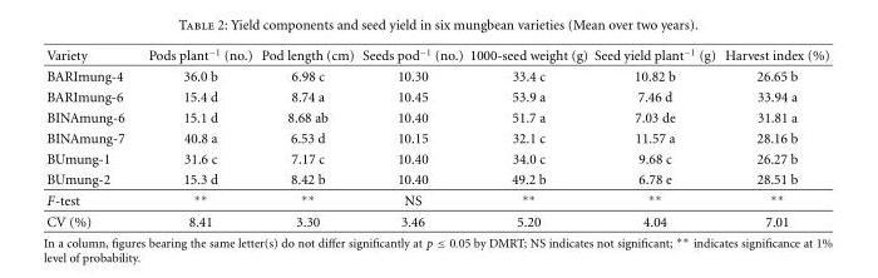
<table><thead><tr><td>Variety</td><td>Pods plant<sup>−1</sup> (no.)</td><td>Pod length (cm)</td><td>Seeds pod<sup>−1</sup> (no.)</td><td>1000-seed weight (g)</td><td>Seed yield plant<sup>−1</sup> (g)</td><td>Harvest index (%)</td></tr></thead><tbody><tr><td>BARImung-4</td><td>36.0 b</td><td>6.98 c</td><td>10.30</td><td>33.4 c</td><td>10.82 b</td><td>26.65 b</td></tr><tr><td>BARImung-6</td><td>15.4 d</td><td>8.74 a</td><td>10.45</td><td>53.9 a</td><td>7.46 d</td><td>33.94 a</td></tr><tr><td>BINAmung-6</td><td>15.1 d</td><td>8.68 ab</td><td>10.40</td><td>51.7 a</td><td>7.03 de</td><td>31.81 a</td></tr><tr><td>BINAmung-7</td><td>40.8 a</td><td>6.53 d</td><td>10.15</td><td>32.1 c</td><td>11.57 a</td><td>28.16 b</td></tr><tr><td>BUmung-1</td><td>31.6 c</td><td>7.17 c</td><td>10.40</td><td>34.0 c</td><td>9.68 c</td><td>26.27 b</td></tr><tr><td>BUmung-2</td><td>15.3 d</td><td>8.42 b</td><td>10.40</td><td>49.2 b</td><td>6.78 e</td><td>28.51 b</td></tr><tr><td>F-test</td><td>∗∗</td><td>∗∗</td><td>NS</td><td>∗∗</td><td>∗∗</td><td>∗∗</td></tr><tr><td>CV (%)</td><td>8.41</td><td>3.30</td><td>3.46</td><td>5.20</td><td>4.04</td><td>7.01</td></tr></tbody></table>